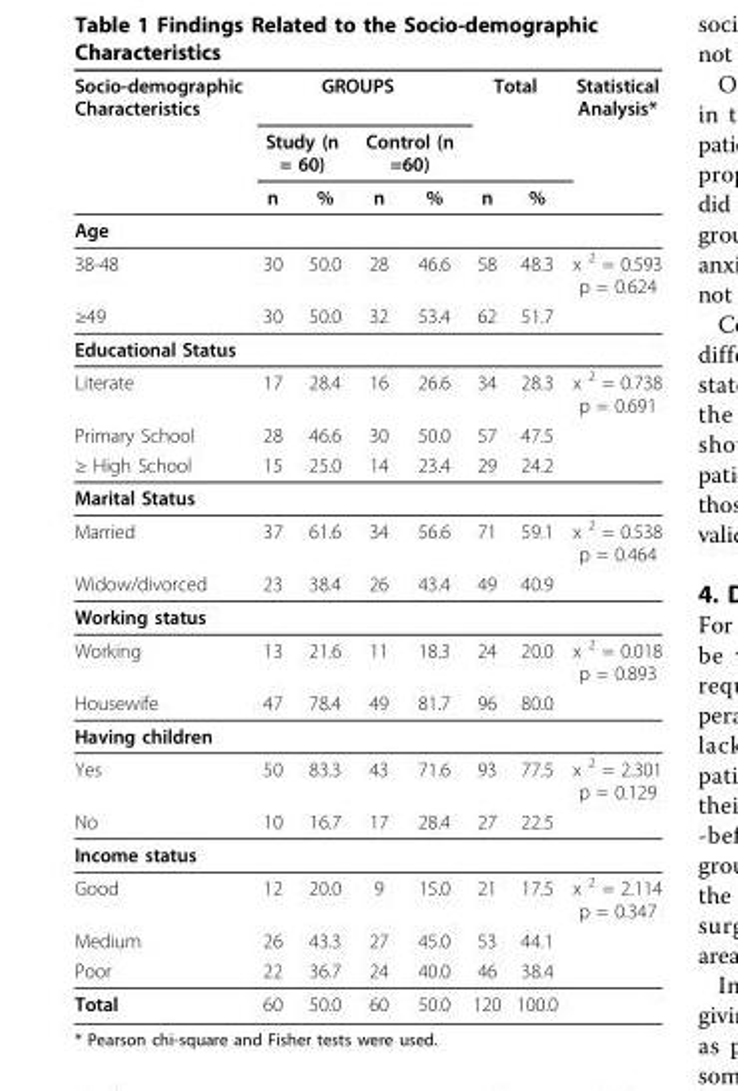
<table><thead><tr><td rowspan="3">Socio-demographic Characteristics</td><td colspan="4">GROUPS</td><td colspan="2">Total</td><td rowspan="3">Statistical Analysis*</td></tr><tr><td colspan="2">Study (n = 60)</td><td colspan="2">Control (n =60)</td><td rowspan="2">n</td><td rowspan="2">%</td></tr><tr><td>n</td><td>%</td><td>n</td><td>%</td></tr></thead><tbody><tr><td colspan="8">Age</td></tr><tr><td>38-48</td><td>30</td><td>50.0</td><td>28</td><td>46.6</td><td>58</td><td>48.3</td><td>x <sup>2</sup> = 0.593 p = 0.624</td></tr><tr><td>≥49</td><td>30</td><td>50.0</td><td>32</td><td>53.4</td><td>62</td><td>51.7</td><td></td></tr><tr><td colspan="8">Educational Status</td></tr><tr><td>Literate</td><td>17</td><td>28.4</td><td>16</td><td>26.6</td><td>34</td><td>28.3</td><td>x <sup>2</sup> = 0.738 p = 0.691</td></tr><tr><td>Primary School</td><td>28</td><td>46.6</td><td>30</td><td>50.0</td><td>57</td><td>47.5</td><td></td></tr><tr><td>≥ High School</td><td>15</td><td>25.0</td><td>14</td><td>23.4</td><td>29</td><td>24.2</td><td></td></tr><tr><td colspan="8">Marital Status</td></tr><tr><td>Married</td><td>37</td><td>61.6</td><td>34</td><td>56.6</td><td>71</td><td>59.1</td><td>x <sup>2</sup> = 0.538 p = 0.464</td></tr><tr><td>Widow/divorced</td><td>23</td><td>38.4</td><td>26</td><td>43.4</td><td>49</td><td>40.9</td><td></td></tr><tr><td colspan="8">Working status</td></tr><tr><td>Working</td><td>13</td><td>21.6</td><td>11</td><td>18.3</td><td>24</td><td>20.0</td><td>x <sup>2</sup> = 0.018 p = 0.893</td></tr><tr><td>Housewife</td><td>47</td><td>78.4</td><td>49</td><td>81.7</td><td>96</td><td>80.0</td><td></td></tr><tr><td colspan="8">Having children</td></tr><tr><td>Yes</td><td>50</td><td>83.3</td><td>43</td><td>71.6</td><td>93</td><td>77.5</td><td>x <sup>2</sup> = 2.301 p = 0.129</td></tr><tr><td>No</td><td>10</td><td>16.7</td><td>17</td><td>28.4</td><td>27</td><td>22.5</td><td></td></tr><tr><td colspan="8">Income status</td></tr><tr><td>Good</td><td>12</td><td>20.0</td><td>9</td><td>15.0</td><td>21</td><td>17.5</td><td>x <sup>2</sup> = 2.114 p = 0.347</td></tr><tr><td>Medium</td><td>26</td><td>43.3</td><td>27</td><td>45.0</td><td>53</td><td>44.1</td><td></td></tr><tr><td>Poor</td><td>22</td><td>36.7</td><td>24</td><td>40.0</td><td>46</td><td>38.4</td><td></td></tr><tr><td>Total</td><td>60</td><td>50.0</td><td>60</td><td>50.0</td><td>120</td><td>100.0</td><td></td></tr></tbody></table>